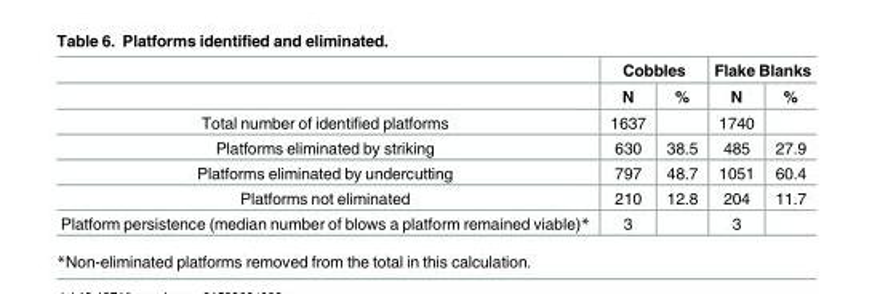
<table><thead><tr><td rowspan="2"></td><td colspan="2">Cobbles</td><td colspan="2">Flake Blanks</td></tr><tr><td>N</td><td>%</td><td>N</td><td>%</td></tr></thead><tbody><tr><td>Total number of identified platforms</td><td>1637</td><td></td><td>1740</td><td></td></tr><tr><td>Platforms eliminated by striking</td><td>630</td><td>38.5</td><td>485</td><td>27.9</td></tr><tr><td>Platforms eliminated by undercutting</td><td>797</td><td>48.7</td><td>1051</td><td>60.4</td></tr><tr><td>Platforms not eliminated</td><td>210</td><td>12.8</td><td>204</td><td>11.7</td></tr><tr><td>Platform persistence (median number of blows a platform remained viable)*</td><td>3</td><td></td><td>3</td><td></td></tr></tbody></table>